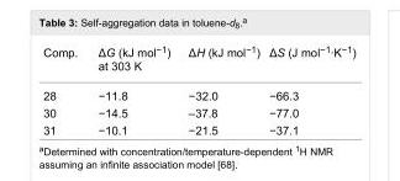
<table><tbody><tr><td>Comp.</td><td>ΔG (kJ mol<sup>−1</sup>) at 303 K</td><td>ΔH (kJ mol<sup>−1</sup>)</td><td>ΔS (J mol<sup>−1</sup>·K<sup>−1</sup>)</td></tr><tr><td>28</td><td>−11.8</td><td>−32.0</td><td>−66.3</td></tr><tr><td>30</td><td>−14.5</td><td>–37.8</td><td>−77.0</td></tr><tr><td>31</td><td>−10.1</td><td>−21.5</td><td>−37.1</td></tr></tbody></table>